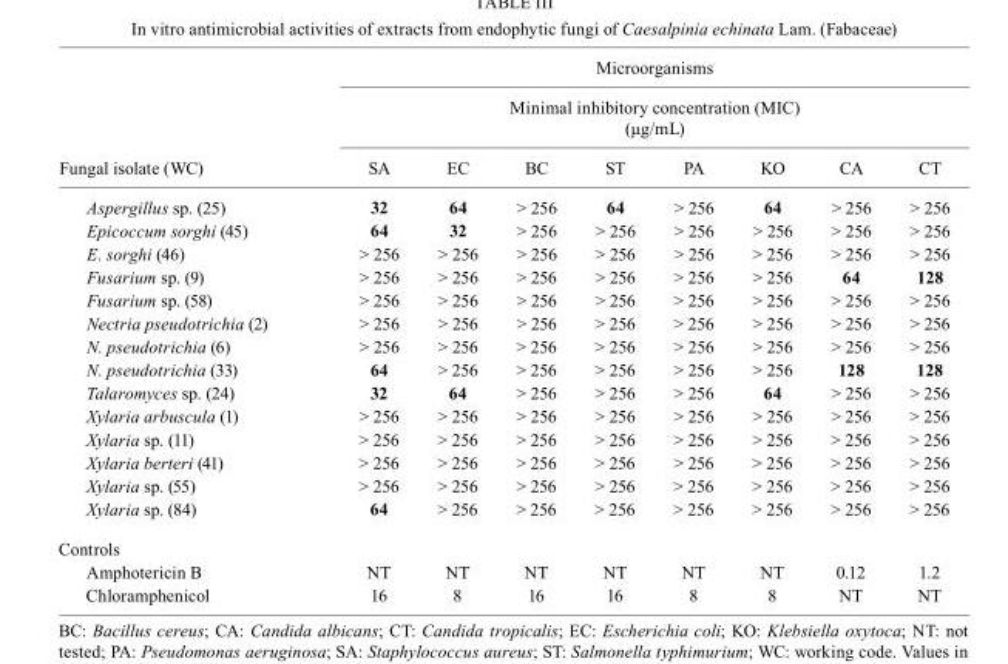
<table><thead><tr><td rowspan="3">Fungal isolate (WC)</td><td rowspan="2" colspan="8">Microorganisms Minimal inhibitory concentration (MIC) (μg/mL)</td></tr><tr></tr><tr><td>SA</td><td>EC</td><td>BC</td><td>ST</td><td>PA</td><td>KO</td><td>CA</td><td>CT</td></tr></thead><tbody><tr><td>Aspergillus sp. (25)</td><td>32</td><td>64</td><td>&gt; 256</td><td>64</td><td>&gt; 256</td><td>64</td><td>&gt; 256</td><td>&gt; 256</td></tr><tr><td>Epicoccum sorghi (45)</td><td>64</td><td>32</td><td>&gt; 256</td><td>&gt; 256</td><td>&gt; 256</td><td>&gt; 256</td><td>&gt; 256</td><td>&gt; 256</td></tr><tr><td>E. sorghi (46)</td><td>&gt; 256</td><td>&gt; 256</td><td>&gt; 256</td><td>&gt; 256</td><td>&gt; 256</td><td>&gt; 256</td><td>&gt; 256</td><td>&gt; 256</td></tr><tr><td>Fusarium sp. (9)</td><td>&gt; 256</td><td>&gt; 256</td><td>&gt; 256</td><td>&gt; 256</td><td>&gt; 256</td><td>&gt; 256</td><td>64</td><td>128</td></tr><tr><td>Fusarium sp. (58)</td><td>&gt; 256</td><td>&gt; 256</td><td>&gt; 256</td><td>&gt; 256</td><td>&gt; 256</td><td>&gt; 256</td><td>&gt; 256</td><td>&gt; 256</td></tr><tr><td>Nectria pseudotrichia (2)</td><td>&gt; 256</td><td>&gt; 256</td><td>&gt; 256</td><td>&gt; 256</td><td>&gt; 256</td><td>&gt; 256</td><td>&gt; 256</td><td>&gt; 256</td></tr><tr><td>N. pseudotrichia (6)</td><td>&gt; 256</td><td>&gt; 256</td><td>&gt; 256</td><td>&gt; 256</td><td>&gt; 256</td><td>&gt; 256</td><td>&gt; 256</td><td>&gt; 256</td></tr><tr><td>N. pseudotrichia (33)</td><td>64</td><td>&gt; 256</td><td>&gt; 256</td><td>&gt; 256</td><td>&gt; 256</td><td>&gt; 256</td><td>128</td><td>128</td></tr><tr><td>Talaromyces sp. (24)</td><td>32</td><td>64</td><td>&gt; 256</td><td>&gt; 256</td><td>&gt; 256</td><td>64</td><td>&gt; 256</td><td>&gt; 256</td></tr><tr><td>Xylaria arbuscula (1)</td><td>&gt; 256</td><td>&gt; 256</td><td>&gt; 256</td><td>&gt; 256</td><td>&gt; 256</td><td>&gt; 256</td><td>&gt; 256</td><td>&gt; 256</td></tr><tr><td>Xylaria sp. (11)</td><td>&gt; 256</td><td>&gt; 256</td><td>&gt; 256</td><td>&gt; 256</td><td>&gt; 256</td><td>&gt; 256</td><td>&gt; 256</td><td>&gt; 256</td></tr><tr><td>Xylaria berteri (41)</td><td>&gt; 256</td><td>&gt; 256</td><td>&gt; 256</td><td>&gt; 256</td><td>&gt; 256</td><td>&gt; 256</td><td>&gt; 256</td><td>&gt; 256</td></tr><tr><td>Xylaria sp. (55)</td><td>&gt; 256</td><td>&gt; 256</td><td>&gt; 256</td><td>&gt; 256</td><td>&gt; 256</td><td>&gt; 256</td><td>&gt; 256</td><td>&gt; 256</td></tr><tr><td>Xylaria sp. (84)</td><td>64</td><td>&gt; 256</td><td>&gt; 256</td><td>&gt; 256</td><td>&gt; 256</td><td>&gt; 256</td><td>&gt; 256</td><td>&gt; 256</td></tr><tr><td colspan="9">Controls</td></tr><tr><td>Amphotericin B</td><td>NT</td><td>NT</td><td>NT</td><td>NT</td><td>NT</td><td>NT</td><td>0.12</td><td>1.2</td></tr><tr><td>Chloramphenicol</td><td>16</td><td>8</td><td>16</td><td>16</td><td>8</td><td>8</td><td>NT</td><td>NT</td></tr></tbody></table>